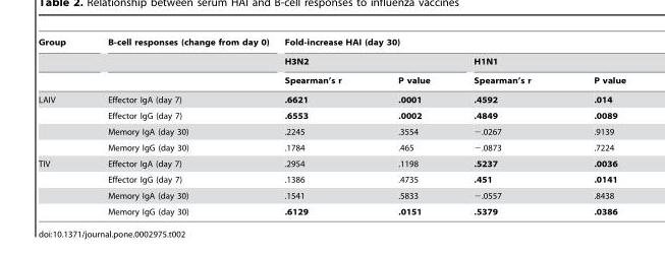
<table><thead><tr><td rowspan="3">Group</td><td rowspan="3">B-cell responses (change from day 0)</td><td colspan="4">Fold-increase HAI (day 30)</td></tr><tr><td colspan="2">H3N2</td><td colspan="2">H1N1</td></tr><tr><td>Spearman’s r</td><td>P value</td><td>Spearman’s r</td><td>P value</td></tr></thead><tbody><tr><td rowspan="4">LAIV</td><td>Effector IgA (day 7)</td><td>.6621</td><td>.0001</td><td>.4592</td><td>.014</td></tr><tr><td>Effector IgG (day 7)</td><td>.6553</td><td>.0002</td><td>.4849</td><td>.0089</td></tr><tr><td>Memory IgA (day 30)</td><td>.2245</td><td>.3554</td><td>−.0267</td><td>.9139</td></tr><tr><td>Memory IgG (day 30)</td><td>.1784</td><td>.465</td><td>−.0873</td><td>.7224</td></tr><tr><td rowspan="4">TIV</td><td>Effector IgA (day 7)</td><td>.2954</td><td>.1198</td><td>.5237</td><td>.0036</td></tr><tr><td>Effector IgG (day 7)</td><td>.1386</td><td>.4735</td><td>.451</td><td>.0141</td></tr><tr><td>Memory IgA (day 30)</td><td>.1541</td><td>.5833</td><td>−.0557</td><td>.8438</td></tr><tr><td>Memory IgG (day 30)</td><td>.6129</td><td>.0151</td><td>.5379</td><td>.0386</td></tr></tbody></table>